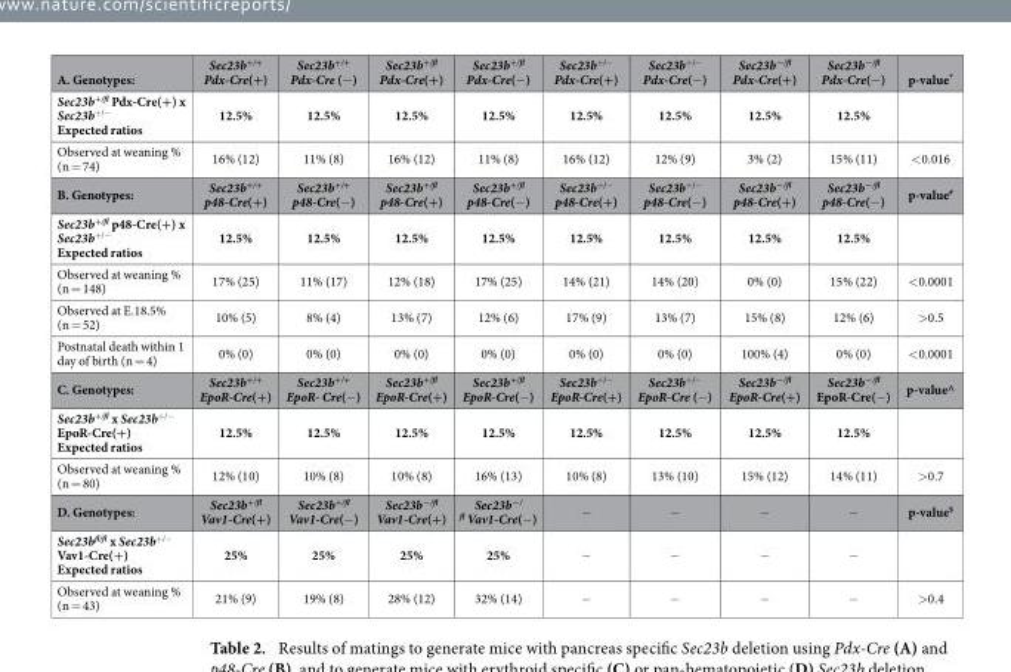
<table><thead><tr><td>A. Genotypes:</td><td>Sec23b<sup>+/+</sup> Pdx-Cre(+)</td><td>Sec23b<sup>+/+</sup> Pdx-Cre (− )</td><td>Sec23b<sup>+/fl</sup> Pdx-Cre(+)</td><td>Sec23b<sup>+/fl</sup> Pdx-Cre(− )</td><td>Sec23b<sup>+/−</sup> Pdx-Cre(+)</td><td>Sec23b<sup>+/−</sup> Pdx-Cre(− )</td><td>Sec23b<sup>−/fl</sup> Pdx-Cre(+)</td><td>Sec23b<sup>−/fl</sup> Pdx-Cre(− )</td><td>p-value*</td></tr></thead><tbody><tr><td>Sec23b<sup>+/fl</sup> Pdx-Cre(+) x Sec23b<sup>+/−</sup> Expected ratios</td><td>12.5%</td><td>12.5%</td><td>12.5%</td><td>12.5%</td><td>12.5%</td><td>12.5%</td><td>12.5%</td><td>12.5%</td><td></td></tr><tr><td>Observed at weaning % (n = 74)</td><td>16% (12)</td><td>11% (8)</td><td>16% (12)</td><td>11% (8)</td><td>16% (12)</td><td>12% (9)</td><td>3% (2)</td><td>15% (11)</td><td>&lt; 0.016</td></tr><tr><td>B. Genotypes:</td><td>Sec23b<sup>+/+</sup> p48-Cre(+)</td><td>Sec23b<sup>+/+</sup> p48-Cre(− )</td><td>Sec23b<sup>+/fl</sup> p48-Cre(+)</td><td>Sec23b<sup>+/fl</sup> p48-Cre(− )</td><td>Sec23b<sup>+/−</sup> p48-Cre(+)</td><td>Sec23b<sup>+/−</sup> p48-Cre(− )</td><td>Sec23b<sup>−/fl</sup> p48-Cre(+)</td><td>Sec23b<sup>−/fl</sup> p48-Cre(− )</td><td>p-value<sup>#</sup></td></tr><tr><td>Sec23b<sup>+/fl</sup> p48-Cre(+) x Sec23b<sup>+/−</sup> Expected ratios</td><td>12.5%</td><td>12.5%</td><td>12.5%</td><td>12.5%</td><td>12.5%</td><td>12.5%</td><td>12.5%</td><td>12.5%</td><td></td></tr><tr><td>Observed at weaning % (n = 148)</td><td>17% (25)</td><td>11% (17)</td><td>12% (18)</td><td>17% (25)</td><td>14% (21)</td><td>14% (20)</td><td>0% (0)</td><td>15% (22)</td><td>&lt; 0.0001</td></tr><tr><td>Observed at E.18.5% (n = 52)</td><td>10% (5)</td><td>8% (4)</td><td>13% (7)</td><td>12% (6)</td><td>17% (9)</td><td>13% (7)</td><td>15% (8)</td><td>12% (6)</td><td>&gt; 0.5</td></tr><tr><td>Postnatal death within 1 day of birth (n = 4)</td><td>0% (0)</td><td>0% (0)</td><td>0% (0)</td><td>0% (0)</td><td>0% (0)</td><td>0% (0)</td><td>100% (4)</td><td>0% (0)</td><td>&lt; 0.0001</td></tr><tr><td>C. Genotypes:</td><td>Sec23b<sup>+/+</sup> EpoR-Cre(+)</td><td>Sec23b<sup>+/+</sup> EpoR- Cre(− )</td><td>Sec23b<sup>+/fl</sup> EpoR-Cre(+)</td><td>Sec23b<sup>+/fl</sup> EpoR-Cre(− )</td><td>Sec23b<sup>+/−</sup> EpoR-Cre(+)</td><td>Sec23b<sup>+/−</sup> EpoR-Cre (− )</td><td>Sec23b<sup>−/fl</sup> EpoR-Cre(+)</td><td>Sec23b<sup>−/fl</sup> EpoR-Cre(− )</td><td>p-value^</td></tr><tr><td>Sec23b<sup>+/fl</sup> x Sec23b<sup>+/−</sup> EpoR-Cre(+) Expected ratios</td><td>12.5%</td><td>12.5%</td><td>12.5%</td><td>12.5%</td><td>12.5%</td><td>12.5%</td><td>12.5%</td><td>12.5%</td><td></td></tr><tr><td>Observed at weaning % (n = 80)</td><td>12% (10)</td><td>10% (8)</td><td>10% (8)</td><td>16% (13)</td><td>10% (8)</td><td>13% (10)</td><td>15% (12)</td><td>14% (11)</td><td>&gt; 0.7</td></tr><tr><td>D. Genotypes:</td><td>Sec23b<sup>+/fl</sup> Vav1-Cre(+)</td><td>Sec23b<sup>+/fl</sup> Vav1-Cre(− )</td><td>Sec23b<sup>−/fl</sup> Vav1-Cre(+)</td><td>Sec23b<sup>−/ fl</sup> Vav1-Cre(− )</td><td>−</td><td>−</td><td>−</td><td>−</td><td>p-value<sup>$</sup></td></tr><tr><td>Sec23b<sup>fl/fl</sup> x Sec23b<sup>+/−</sup> Vav1-Cre(+) Expected ratios</td><td>25%</td><td>25%</td><td>25%</td><td>25%</td><td>−</td><td>−</td><td>−</td><td>−</td><td></td></tr><tr><td>Observed at weaning % (n = 43)</td><td>21% (9)</td><td>19% (8)</td><td>28% (12)</td><td>32% (14)</td><td>−</td><td>−</td><td>−</td><td>−</td><td>&gt; 0.4</td></tr></tbody></table>